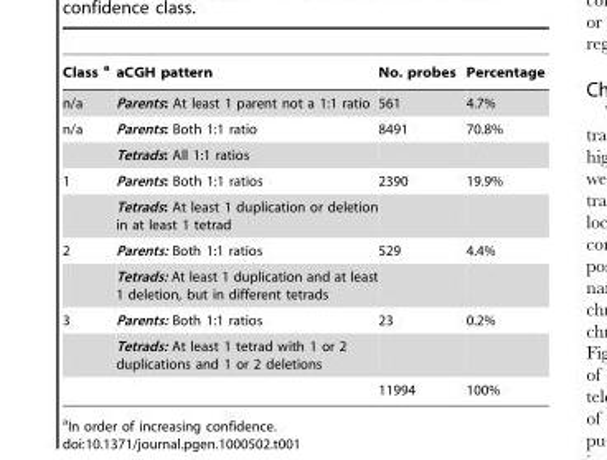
<table><thead><tr><td>Class a</td><td>aCGH pattern</td><td>No. probes</td><td>Percentage</td></tr></thead><tbody><tr><td>n/a</td><td>Parents: At least 1 parent not a 1:1 ratio</td><td>561</td><td>4.7%</td></tr><tr><td rowspan="2">n/a</td><td>Parents: Both 1:1 ratio</td><td>8491</td><td>70.8%</td></tr><tr><td>Tetrads: All 1:1 ratios</td><td></td><td></td></tr><tr><td rowspan="2">1</td><td>Parents: Both 1:1 ratios</td><td>2390</td><td>19.9%</td></tr><tr><td>Tetrads: At least 1 duplication or deletion in at least 1 tetrad</td><td></td><td></td></tr><tr><td rowspan="2">2</td><td>Parents: Both 1:1 ratios</td><td>529</td><td>4.4%</td></tr><tr><td>Tetrads: At least 1 duplication and at least 1 deletion, but in different tetrads</td><td></td><td></td></tr><tr><td rowspan="3">3</td><td>Parents: Both 1:1 ratios</td><td>23</td><td>0.2%</td></tr><tr><td>Tetrads: At least 1 tetrad with 1 or 2 duplications and 1 or 2 deletions</td><td></td><td></td></tr><tr><td></td><td>11994</td><td>100%</td></tr></tbody></table>